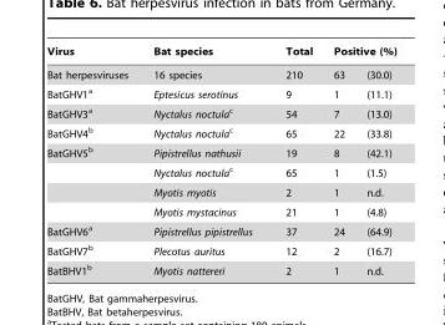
<table><thead><tr><td rowspan="2">Virus Bat herpesviruses</td><td rowspan="2">Bat species 16 species</td><td rowspan="2">Total 210</td><td colspan="2">Positive (%)</td></tr><tr><td>63</td><td>(30.0)</td></tr></thead><tbody><tr><td>BatGHV1<sup>a</sup></td><td>Eptesicus serotinus</td><td>9</td><td>1</td><td>(11.1)</td></tr><tr><td>BatGHV3<sup>a</sup></td><td>Nyctalus noctulac</td><td>54</td><td>7</td><td>(13.0)</td></tr><tr><td>BatGHV4<sup>b</sup></td><td>Nyctalus noctulac</td><td>65</td><td>22</td><td>(33.8)</td></tr><tr><td rowspan="4">BatGHV5<sup>b</sup></td><td>Pipistrellus nathusii</td><td>19</td><td>8</td><td>(42.1)</td></tr><tr><td>Nyctalus noctulac</td><td>65</td><td>1</td><td>(1.5)</td></tr><tr><td>Myotis myotis</td><td>2</td><td>1</td><td>n.d.</td></tr><tr><td>Myotis mystacinus</td><td>21</td><td>1</td><td>(4.8)</td></tr><tr><td>BatGHV6<sup>a</sup></td><td>Pipistrellus pipistrellus</td><td>37</td><td>24</td><td>(64.9)</td></tr><tr><td>BatGHV7<sup>b</sup></td><td>Plecotus auritus</td><td>12</td><td>2</td><td>(16.7)</td></tr><tr><td>BatBHV1<sup>b</sup></td><td>Myotis nattereri</td><td>2</td><td>1</td><td>n.d.</td></tr></tbody></table>